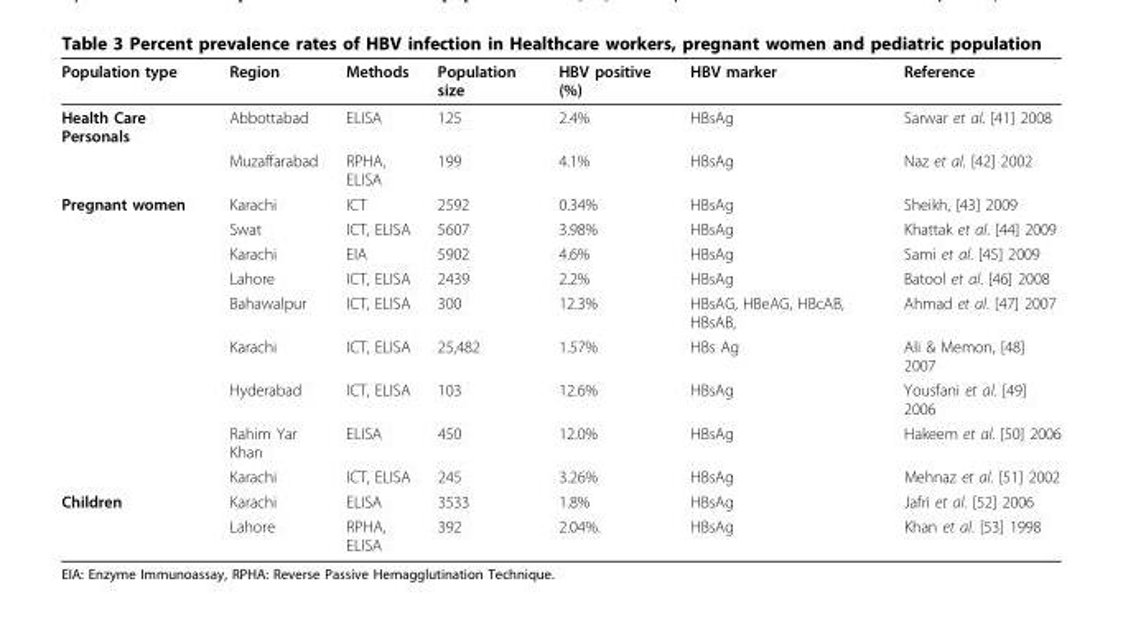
<table><thead><tr><td>Population type</td><td>Region</td><td>Methods</td><td>Population size</td><td>HBV positive (%)</td><td>HBV marker</td><td>Reference</td></tr></thead><tbody><tr><td rowspan="2">Health Care Personals</td><td>Abbottabad</td><td>ELISA</td><td>125</td><td>2.4%</td><td>HBsAg</td><td>Sarwar et al. [41] 2008</td></tr><tr><td>Muzaffarabad</td><td>RPHA, ELISA</td><td>199</td><td>4.1%</td><td>HBsAg</td><td>Naz et al. [42] 2002</td></tr><tr><td rowspan="9">Pregnant women</td><td>Karachi</td><td>ICT</td><td>2592</td><td>0.34%</td><td>HBsAg</td><td>Sheikh, [43] 2009</td></tr><tr><td>Swat</td><td>ICT, ELISA</td><td>5607</td><td>3.98%</td><td>HBsAg</td><td>Khattak et al. [44] 2009</td></tr><tr><td>Karachi</td><td>EIA</td><td>5902</td><td>4.6%</td><td>HBsAg</td><td>Sami et al. [45] 2009</td></tr><tr><td>Lahore</td><td>ICT, ELISA</td><td>2439</td><td>2.2%</td><td>HBsAg</td><td>Batool et al. [46] 2008</td></tr><tr><td>Bahawalpur</td><td>ICT, ELISA</td><td>300</td><td>12.3%</td><td>HBsAG, HBeAG, HBcAB, HBsAB,</td><td>Ahmad et al. [47] 2007</td></tr><tr><td>Karachi</td><td>ICT, ELISA</td><td>25,482</td><td>1.57%</td><td>HBs Ag</td><td>Ali &amp; Memon, [48] 2007</td></tr><tr><td>Hyderabad</td><td>ICT, ELISA</td><td>103</td><td>12.6%</td><td>HBsAg</td><td>Yousfani et al. [49] 2006</td></tr><tr><td>Rahim Yar Khan</td><td>ELISA</td><td>450</td><td>12.0%</td><td>HBsAg</td><td>Hakeem et al. [50] 2006</td></tr><tr><td>Karachi</td><td>ICT, ELISA</td><td>245</td><td>3.26%</td><td>HBsAg</td><td>Mehnaz et al. [51] 2002</td></tr><tr><td rowspan="2">Children</td><td>Karachi</td><td>ELISA</td><td>3533</td><td>1.8%</td><td>HBsAg</td><td>Jafri et al. [52] 2006</td></tr><tr><td>Lahore</td><td>RPHA, ELISA</td><td>392</td><td>2.04%.</td><td>HBsAg</td><td>Khan et al. [53] 1998</td></tr></tbody></table>